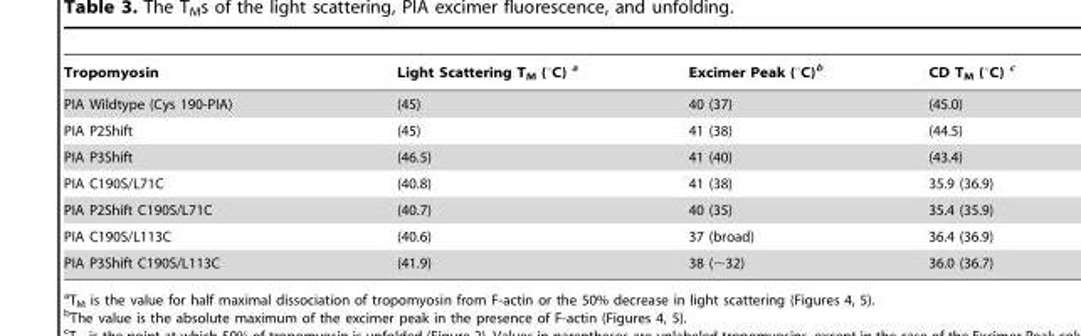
<table><thead><tr><td>Tropomyosin</td><td>Light Scattering T<sub>M</sub> (°C) a</td><td>Excimer Peak (°C)<sup>b</sup></td><td>CD T<sub>M</sub> (°C) c</td></tr></thead><tbody><tr><td>PIA Wildtype (Cys 190-PIA)</td><td>(45)</td><td>40 (37)</td><td>(45.0)</td></tr><tr><td>PIA P2Shift</td><td>(45)</td><td>41 (38)</td><td>(44.5)</td></tr><tr><td>PIA P3Shift</td><td>(46.5)</td><td>41 (40)</td><td>(43.4)</td></tr><tr><td>PIA C190S/L71C</td><td>(40.8)</td><td>41 (38)</td><td>35.9 (36.9)</td></tr><tr><td>PIA P2Shift C190S/L71C</td><td>(40.7)</td><td>40 (35)</td><td>35.4 (35.9)</td></tr><tr><td>PIA C190S/L113C</td><td>(40.6)</td><td>37 (broad)</td><td>36.4 (36.9)</td></tr><tr><td>PIA P3Shift C190S/L113C</td><td>(41.9)</td><td>38 (∼32)</td><td>36.0 (36.7)</td></tr></tbody></table>